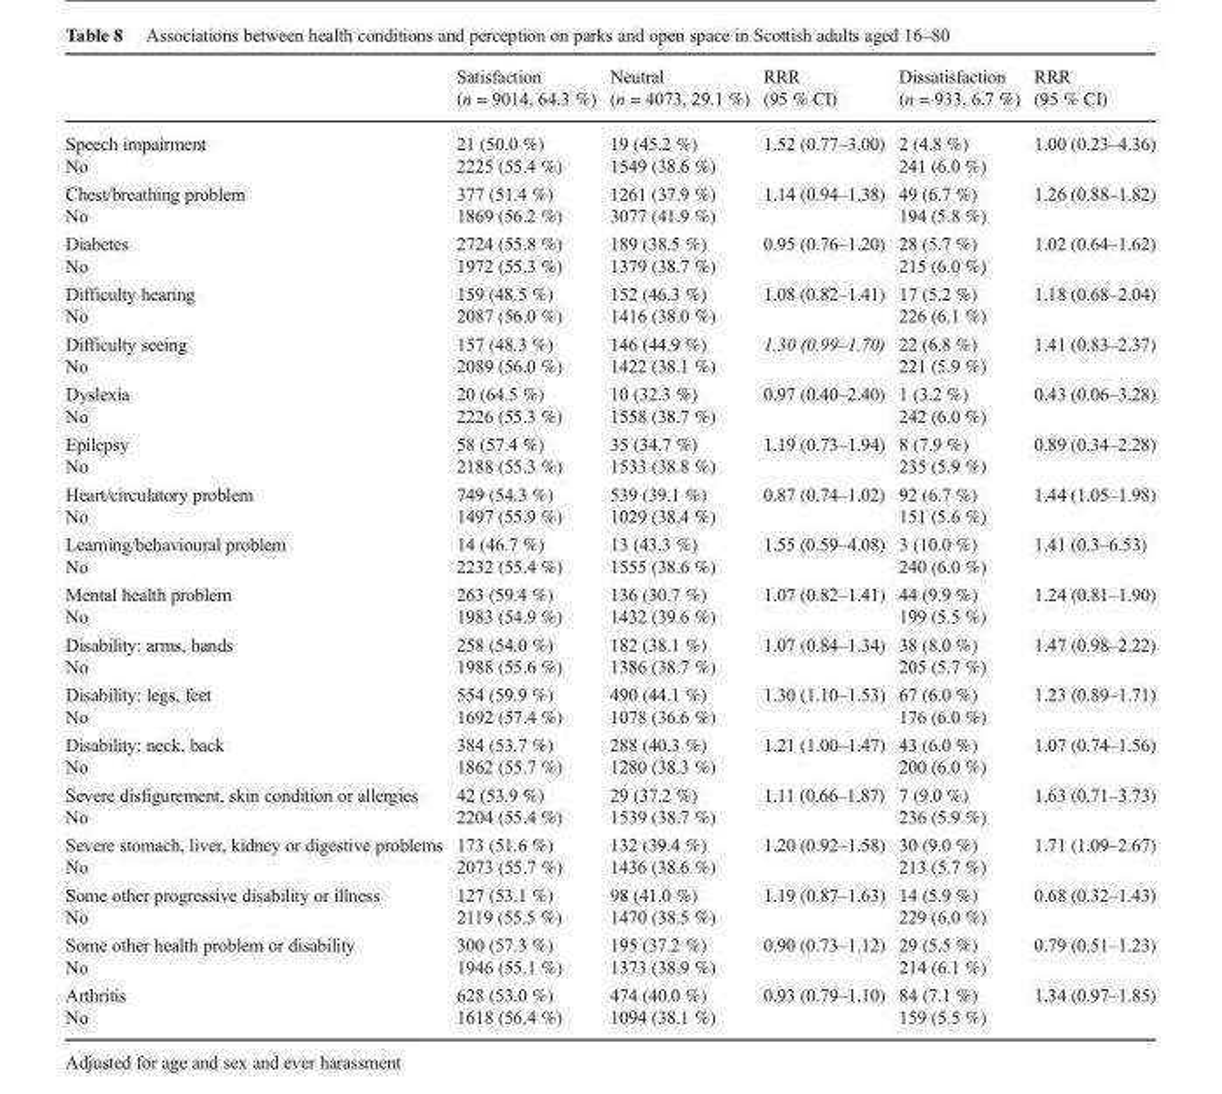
<table><thead><tr><td></td><td>Satisfaction (n = 9014, 64.3 %)</td><td>Neutral (n = 4073, 29.1 %)</td><td>RRR (95 % CI)</td><td>Dissatisfaction (n = 933, 6.7 %)</td><td>RRR (95 % CI)</td></tr></thead><tbody><tr><td>Speech impairment</td><td>21 (50.0 %)</td><td>19 (45.2 %)</td><td rowspan="2">1.52 (0.77–3.00)</td><td>2 (4.8 %)</td><td rowspan="2">1.00 (0.23–4.36)</td></tr><tr><td>No</td><td>2225 (55.4 %)</td><td>1549 (38.6 %)</td><td>241 (6.0 %)</td></tr><tr><td>Chest/breathing problem</td><td>377 (51.4 %)</td><td>1261 (37.9 %)</td><td rowspan="2">1.14 (0.94–1.38)</td><td>49 (6.7 %)</td><td rowspan="2">1.26 (0.88–1.82)</td></tr><tr><td>No</td><td>1869 (56.2 %)</td><td>3077 (41.9 %)</td><td>194 (5.8 %)</td></tr><tr><td>Diabetes</td><td>2724 (55.8 %)</td><td>189 (38.5 %)</td><td rowspan="2">0.95 (0.76–1.20)</td><td>28 (5.7 %)</td><td rowspan="2">1.02 (0.64–1.62)</td></tr><tr><td>No</td><td>1972 (55.3 %)</td><td>1379 (38.7 %)</td><td>215 (6.0 %)</td></tr><tr><td>Difficulty hearing</td><td>159 (48.5 %)</td><td>152 (46.3 %)</td><td rowspan="2">1.08 (0.82–1.41)</td><td>17 (5.2 %)</td><td rowspan="2">1.18 (0.68–2.04)</td></tr><tr><td>No</td><td>2087 (56.0 %)</td><td>1416 (38.0 %)</td><td>226 (6.1 %)</td></tr><tr><td>Difficulty seeing</td><td>157 (48.3 %)</td><td>146 (44.9 %)</td><td rowspan="2">1.30 (0.99–1.70)</td><td>22 (6.8 %)</td><td rowspan="2">1.41 (0.83–2.37)</td></tr><tr><td>No</td><td>2089 (56.0 %)</td><td>1422 (38.1 %)</td><td>221 (5.9 %)</td></tr><tr><td>Dyslexia</td><td>20 (64.5 %)</td><td>10 (32.3 %)</td><td rowspan="2">0.97 (0.40–2.40)</td><td>1 (3.2 %)</td><td rowspan="2">0.43 (0.06–3.28)</td></tr><tr><td>No</td><td>2226 (55.3 %)</td><td>1558 (38.7 %)</td><td>242 (6.0 %)</td></tr><tr><td>Epilepsy</td><td>58 (57.4 %)</td><td>35 (34.7 %)</td><td rowspan="2">1.19 (0.73–1.94)</td><td>8 (7.9 %)</td><td rowspan="2">0.89 (0.34–2.28)</td></tr><tr><td>No</td><td>2188 (55.3 %)</td><td>1533 (38.8 %)</td><td>235 (5.9 %)</td></tr><tr><td>Heart/circulatory problem</td><td>749 (54.3 %)</td><td>539 (39.1 %)</td><td rowspan="2">0.87 (0.74–1.02)</td><td>92 (6.7 %)</td><td rowspan="2">1.44 (1.05–1.98)</td></tr><tr><td>No</td><td>1497 (55.9 %)</td><td>1029 (38.4 %)</td><td>151 (5.6 %)</td></tr><tr><td>Learning/behavioural problem</td><td>14 (46.7 %)</td><td>13 (43.3 %)</td><td rowspan="2">1.55 (0.59–4.08)</td><td>3 (10.0 %)</td><td rowspan="2">1.41 (0.3–6.53)</td></tr><tr><td>No</td><td>2232 (55.4 %)</td><td>1555 (38.6 %)</td><td>240 (6.0 %)</td></tr><tr><td>Mental health problem</td><td>263 (59.4 %)</td><td>136 (30.7 %)</td><td rowspan="2">1.07 (0.82–1.41)</td><td>44 (9.9 %)</td><td rowspan="2">1.24 (0.81–1.90)</td></tr><tr><td>No</td><td>1983 (54.9 %)</td><td>1432 (39.6 %)</td><td>199 (5.5 %)</td></tr><tr><td>Disability: arms, hands</td><td>258 (54.0 %)</td><td>182 (38.1 %)</td><td rowspan="2">1.07 (0.84–1.34)</td><td>38 (8.0 %)</td><td rowspan="2">1.47 (0.98–2.22)</td></tr><tr><td>No</td><td>1988 (55.6 %)</td><td>1386 (38.7 %)</td><td>205 (5.7 %)</td></tr><tr><td>Disability: legs, feet</td><td>554 (59.9 %)</td><td>490 (44.1 %)</td><td rowspan="2">1.30 (1.10–1.53)</td><td>67 (6.0 %)</td><td rowspan="2">1.23 (0.89–1.71)</td></tr><tr><td>No</td><td>1692 (57.4 %)</td><td>1078 (36.6 %)</td><td>176 (6.0 %)</td></tr><tr><td>Disability: neck, back</td><td>384 (53.7 %)</td><td>288 (40.3 %)</td><td rowspan="2">1.21 (1.00–1.47)</td><td>43 (6.0 %)</td><td rowspan="2">1.07 (0.74–1.56)</td></tr><tr><td>No</td><td>1862 (55.7 %)</td><td>1280 (38.3 %)</td><td>200 (6.0 %)</td></tr><tr><td>Severe disfigurement, skin condition or allergies</td><td>42 (53.9 %)</td><td>29 (37.2 %)</td><td rowspan="2">1.11 (0.66–1.87)</td><td>7 (9.0 %)</td><td rowspan="2">1.63 (0.71–3.73)</td></tr><tr><td>No</td><td>2204 (55.4 %)</td><td>1539 (38.7 %)</td><td>236 (5.9 %)</td></tr><tr><td>Severe stomach, liver, kidney or digestive problems</td><td>173 (51.6 %)</td><td>132 (39.4 %)</td><td rowspan="2">1.20 (0.92–1.58)</td><td>30 (9.0 %)</td><td rowspan="2">1.71 (1.09–2.67)</td></tr><tr><td>No</td><td>2073 (55.7 %)</td><td>1436 (38.6 %)</td><td>213 (5.7 %)</td></tr><tr><td>Some other progressive disability or illness</td><td>127 (53.1 %)</td><td>98 (41.0 %)</td><td rowspan="2">1.19 (0.87–1.63)</td><td>14 (5.9 %)</td><td rowspan="2">0.68 (0.32–1.43)</td></tr><tr><td>No</td><td>2119 (55.5 %)</td><td>1470 (38.5 %)</td><td>229 (6.0 %)</td></tr><tr><td>Some other health problem or disability</td><td>300 (57.3 %)</td><td>195 (37.2 %)</td><td rowspan="2">0.90 (0.73–1.12)</td><td>29 (5.5 %)</td><td rowspan="2">0.79 (0.51–1.23)</td></tr><tr><td>No</td><td>1946 (55.1 %)</td><td>1373 (38.9 %)</td><td>214 (6.1 %)</td></tr><tr><td>Arthritis</td><td>628 (53.0 %)</td><td>474 (40.0 %)</td><td rowspan="2">0.93 (0.79–1.10)</td><td>84 (7.1 %)</td><td rowspan="2">1.34 (0.97–1.85)</td></tr><tr><td>No</td><td>1618 (56.4 %)</td><td>1094 (38.1 %)</td><td>159 (5.5 %)</td></tr></tbody></table>